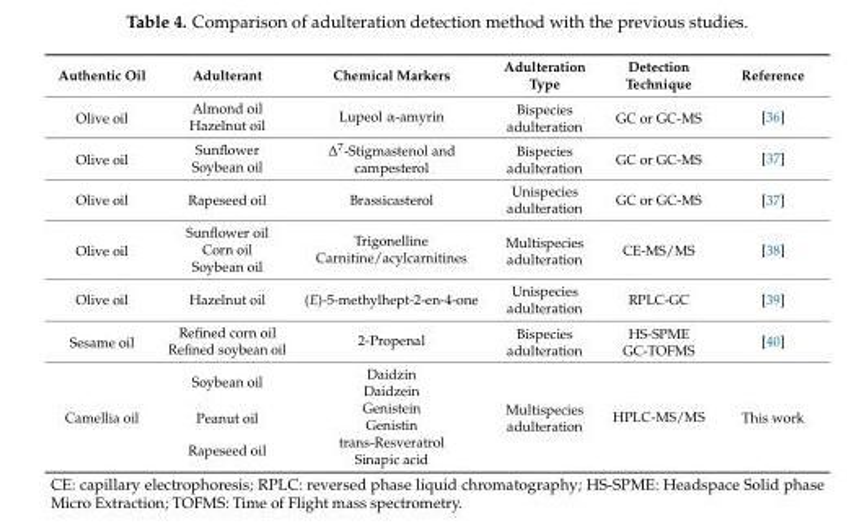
<table><thead><tr><td>Authentic Oil</td><td>Adulterant</td><td>Chemical Markers</td><td>Adulteration Type</td><td>Detection Technique</td><td>Reference</td></tr></thead><tbody><tr><td rowspan="2">Olive oil</td><td>Almond oil</td><td rowspan="2">Lupeol α-amyrin</td><td rowspan="2">Bispecies adulteration</td><td rowspan="2">GC or GC-MS</td><td rowspan="2">[36]</td></tr><tr><td>Hazelnut oil</td></tr><tr><td rowspan="2">Olive oil</td><td>Sunflower</td><td rowspan="2">∆7-Stigmastenol and campesterol</td><td rowspan="2">Bispecies adulteration</td><td rowspan="2">GC or GC-MS</td><td rowspan="2">[37]</td></tr><tr><td>Soybean oil</td></tr><tr><td>Olive oil</td><td>Rapeseed oil</td><td>Brassicasterol</td><td>Unispecies adulteration</td><td>GC or GC-MS</td><td>[37]</td></tr><tr><td rowspan="3">Olive oil</td><td>Sunflower oil</td><td rowspan="3">Trigonelline Carnitine/acylcarnitines</td><td rowspan="3">Multispecies adulteration</td><td rowspan="3">CE-MS/MS</td><td rowspan="3">[38]</td></tr><tr><td>Corn oil</td></tr><tr><td>Soybean oil</td></tr><tr><td>Olive oil</td><td>Hazelnut oil</td><td>(E)-5-methylhept-2-en-4-one</td><td>Unispecies adulteration</td><td>RPLC-GC</td><td>[39]</td></tr><tr><td rowspan="2">Sesame oil</td><td>Refined corn oil</td><td rowspan="2">2-Propenal</td><td rowspan="2">Bispecies adulteration</td><td rowspan="2">HS-SPME GC-TOFMS</td><td rowspan="2">[40]</td></tr><tr><td>Refined soybean oil</td></tr><tr><td rowspan="6">Camellia oil</td><td rowspan="2">Soybean oil</td><td>Daidzin</td><td rowspan="6">Multispecies adulteration</td><td rowspan="6">HPLC-MS/MS</td><td rowspan="6">This work</td></tr><tr><td>Daidzein</td></tr><tr><td rowspan="2">Peanut oil</td><td>Genistein</td></tr><tr><td>Genistin</td></tr><tr><td rowspan="2">Rapeseed oil</td><td>trans-Resveratrol</td></tr><tr><td>Sinapic acid</td></tr></tbody></table>